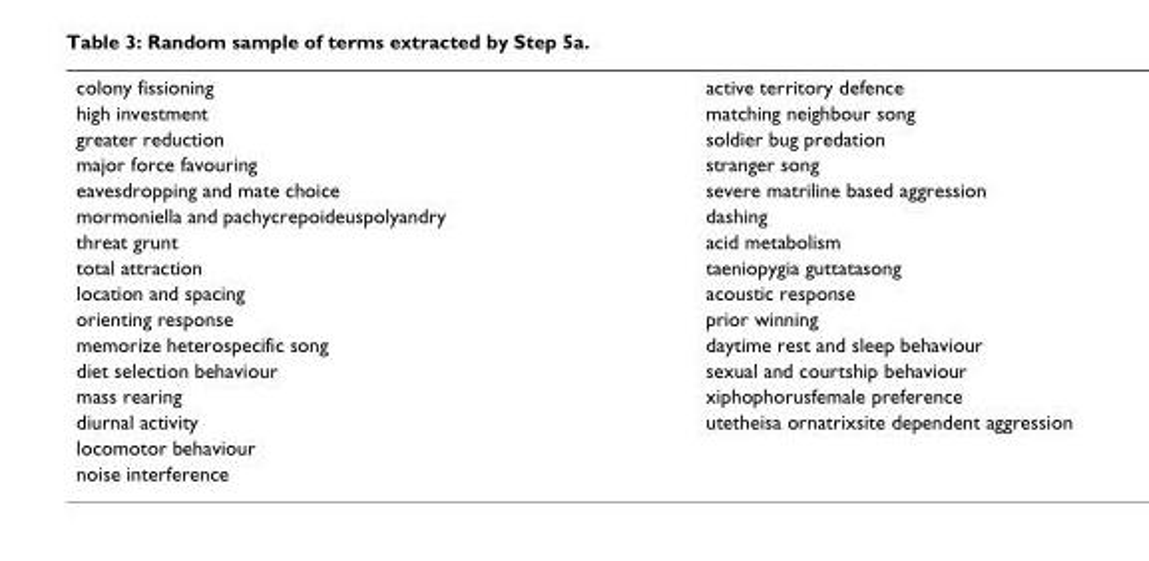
<table><tbody><tr><td>colony fissioning</td><td>active territory defence</td></tr><tr><td>high investment</td><td>matching neighbour song</td></tr><tr><td>greater reduction</td><td>soldier bug predation</td></tr><tr><td>major force favouring</td><td>stranger song</td></tr><tr><td>eavesdropping and mate choice</td><td>severe matriline based aggression</td></tr><tr><td>mormoniella and pachycrepoideuspolyandry</td><td>dashing</td></tr><tr><td>threat grunt</td><td>acid metabolism</td></tr><tr><td>total attraction</td><td>taeniopygia guttatasong</td></tr><tr><td>location and spacing</td><td>acoustic response</td></tr><tr><td>orienting response</td><td>prior winning</td></tr><tr><td>memorize heterospecific song</td><td>daytime rest and sleep behaviour</td></tr><tr><td>diet selection behaviour</td><td>sexual and courtship behaviour</td></tr><tr><td>mass rearing</td><td>xiphophorusfemale preference</td></tr><tr><td>diurnal activity</td><td>utetheisa ornatrixsite dependent aggression</td></tr><tr><td colspan="2">locomotor behaviour</td></tr><tr><td>noise interference</td><td></td></tr></tbody></table>